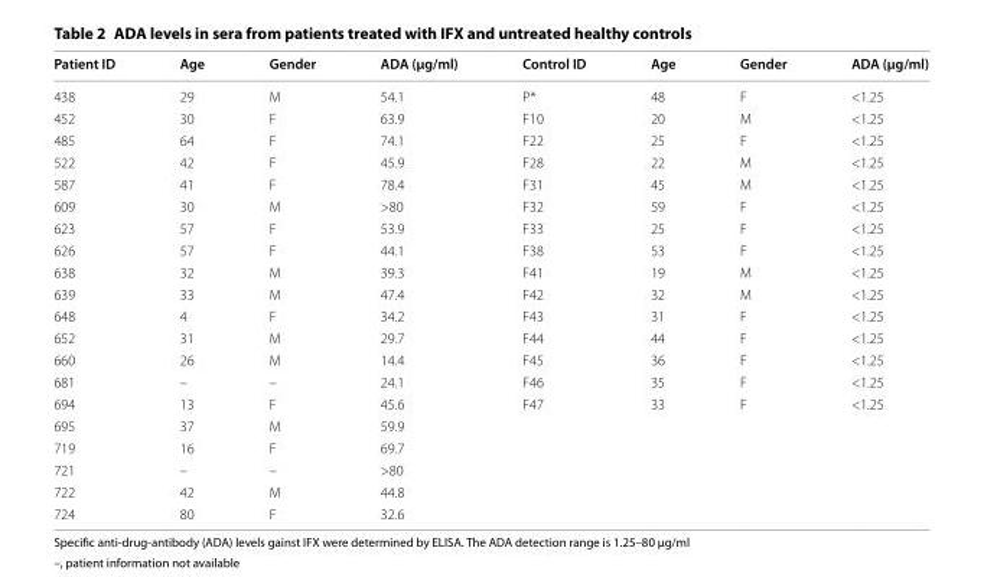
<table><thead><tr><td>Patient ID</td><td>Age</td><td>Gender</td><td>ADA (µg/ml)</td><td>Control ID</td><td>Age</td><td>Gender</td><td>ADA (µg/ml)</td></tr></thead><tbody><tr><td>438</td><td>29</td><td>M</td><td>54.1</td><td>P*</td><td>48</td><td>F</td><td>&lt;1.25</td></tr><tr><td>452</td><td>30</td><td>F</td><td>63.9</td><td>F10</td><td>20</td><td>M</td><td>&lt;1.25</td></tr><tr><td>485</td><td>64</td><td>F</td><td>74.1</td><td>F22</td><td>25</td><td>F</td><td>&lt;1.25</td></tr><tr><td>522</td><td>42</td><td>F</td><td>45.9</td><td>F28</td><td>22</td><td>M</td><td>&lt;1.25</td></tr><tr><td>587</td><td>41</td><td>F</td><td>78.4</td><td>F31</td><td>45</td><td>M</td><td>&lt;1.25</td></tr><tr><td>609</td><td>30</td><td>M</td><td>&gt;80</td><td>F32</td><td>59</td><td>F</td><td>&lt;1.25</td></tr><tr><td>623</td><td>57</td><td>F</td><td>53.9</td><td>F33</td><td>25</td><td>F</td><td>&lt;1.25</td></tr><tr><td>626</td><td>57</td><td>F</td><td>44.1</td><td>F38</td><td>53</td><td>F</td><td>&lt;1.25</td></tr><tr><td>638</td><td>32</td><td>M</td><td>39.3</td><td>F41</td><td>19</td><td>M</td><td>&lt;1.25</td></tr><tr><td>639</td><td>33</td><td>M</td><td>47.4</td><td>F42</td><td>32</td><td>M</td><td>&lt;1.25</td></tr><tr><td>648</td><td>4</td><td>F</td><td>34.2</td><td>F43</td><td>31</td><td>F</td><td>&lt;1.25</td></tr><tr><td>652</td><td>31</td><td>M</td><td>29.7</td><td>F44</td><td>44</td><td>F</td><td>&lt;1.25</td></tr><tr><td>660</td><td>26</td><td>M</td><td>14.4</td><td>F45</td><td>36</td><td>F</td><td>&lt;1.25</td></tr><tr><td>681</td><td>–</td><td>–</td><td>24.1</td><td>F46</td><td>35</td><td>F</td><td>&lt;1.25</td></tr><tr><td>694</td><td>13</td><td>F</td><td>45.6</td><td>F47</td><td>33</td><td>F</td><td>&lt;1.25</td></tr><tr><td>695</td><td>37</td><td>M</td><td>59.9</td><td></td><td></td><td></td><td></td></tr><tr><td>719</td><td>16</td><td>F</td><td>69.7</td><td></td><td></td><td></td><td></td></tr><tr><td>721</td><td>–</td><td>–</td><td>&gt;80</td><td></td><td></td><td></td><td></td></tr><tr><td>722</td><td>42</td><td>M</td><td>44.8</td><td></td><td></td><td></td><td></td></tr><tr><td>724</td><td>80</td><td>F</td><td>32.6</td><td></td><td></td><td></td><td></td></tr></tbody></table>